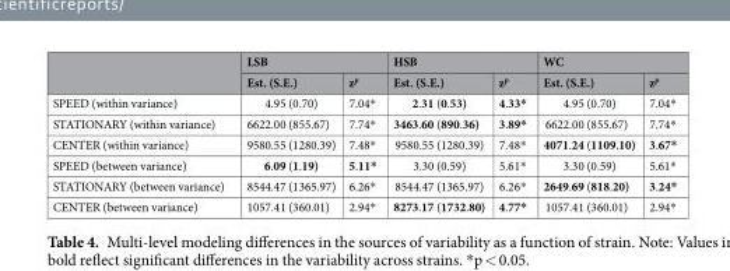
<table><thead><tr><td rowspan="2"></td><td colspan="2">LSB</td><td colspan="2">HSB</td><td colspan="2">WC</td></tr><tr><td>Est. (S.E.)</td><td>z<sup>p</sup></td><td>Est. (S.E.)</td><td>z<sup>p</sup></td><td>Est. (S.E.)</td><td>z<sup>p</sup></td></tr></thead><tbody><tr><td>SPEED (within variance)</td><td>4.95 (0.70)</td><td>7.04*</td><td>2.31 (0.53)</td><td>4.33*</td><td>4.95 (0.70)</td><td>7.04*</td></tr><tr><td>STATIONARY (within variance)</td><td>6622.00 (855.67)</td><td>7.74*</td><td>3463.60 (890.36)</td><td>3.89*</td><td>6622.00 (855.67)</td><td>7.74*</td></tr><tr><td>CENTER (within variance)</td><td>9580.55 (1280.39)</td><td>7.48*</td><td>9580.55 (1280.39)</td><td>7.48*</td><td>4071.24 (1109.10)</td><td>3.67*</td></tr><tr><td>SPEED (between variance)</td><td>6.09 (1.19)</td><td>5.11*</td><td>3.30 (0.59)</td><td>5.61*</td><td>3.30 (0.59)</td><td>5.61*</td></tr><tr><td>STATIONARY (between variance)</td><td>8544.47 (1365.97)</td><td>6.26*</td><td>8544.47 (1365.97)</td><td>6.26*</td><td>2649.69 (818.20)</td><td>3.24*</td></tr><tr><td>CENTER (between variance)</td><td>1057.41 (360.01)</td><td>2.94*</td><td>8273.17 (1732.80)</td><td>4.77*</td><td>1057.41 (360.01)</td><td>2.94*</td></tr></tbody></table>